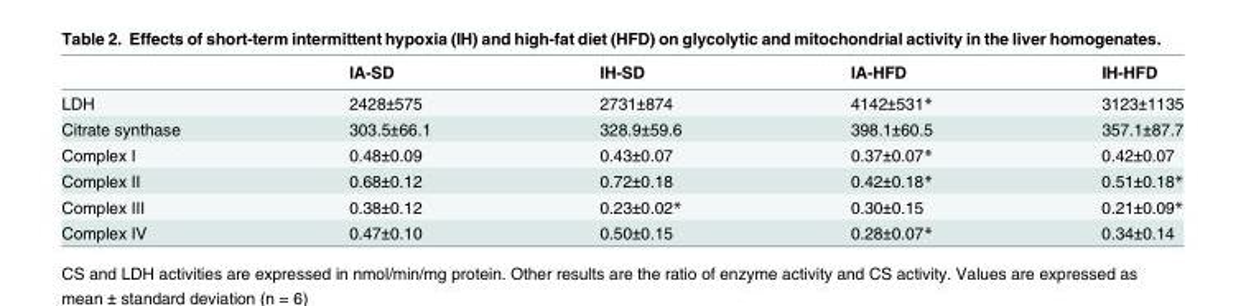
<table><thead><tr><td></td><td>IA-SD</td><td>IH-SD</td><td>IA-HFD</td><td>IH-HFD</td></tr></thead><tbody><tr><td>LDH</td><td>2428±575</td><td>2731±874</td><td>4142±531*</td><td>3123±1135</td></tr><tr><td>Citrate synthase</td><td>303.5±66.1</td><td>328.9±59.6</td><td>398.1±60.5</td><td>357.1±87.7</td></tr><tr><td>Complex I</td><td>0.48±0.09</td><td>0.43±0.07</td><td>0.37±0.07*</td><td>0.42±0.07</td></tr><tr><td>Complex II</td><td>0.68±0.12</td><td>0.72±0.18</td><td>0.42±0.18*</td><td>0.51±0.18*</td></tr><tr><td>Complex III</td><td>0.38±0.12</td><td>0.23±0.02*</td><td>0.30±0.15</td><td>0.21±0.09*</td></tr><tr><td>Complex IV</td><td>0.47±0.10</td><td>0.50±0.15</td><td>0.28±0.07*</td><td>0.34±0.14</td></tr></tbody></table>